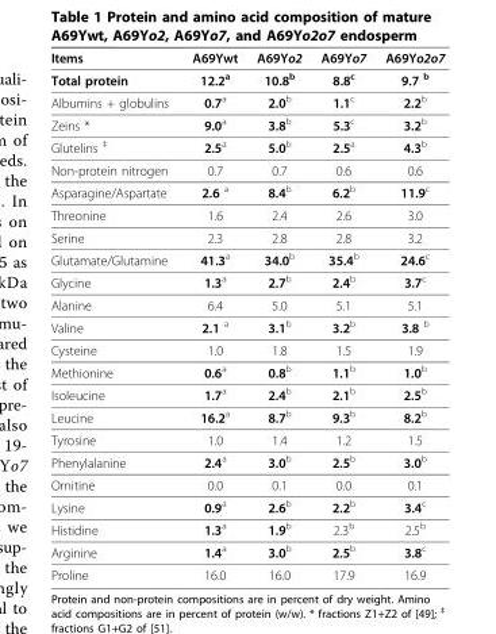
<table><thead><tr><td>Items</td><td>A69Ywt</td><td>A69Yo2</td><td>A69Yo7</td><td>A69Yo2o7</td></tr></thead><tbody><tr><td>Total protein</td><td>12.2<sup>a</sup></td><td>10.8<sup>b</sup></td><td>8.8<sup>c</sup></td><td>9.7 <sup>b</sup></td></tr><tr><td>Albumins + globulins</td><td>0.7<sup>a</sup></td><td>2.0<sup>b</sup></td><td>1.1<sup>c</sup></td><td>2.2<sup>b</sup></td></tr><tr><td>Zeins *</td><td>9.0<sup>a</sup></td><td>3.8<sup>b</sup></td><td>5.3<sup>c</sup></td><td>3.2<sup>b</sup></td></tr><tr><td>Glutelins <sup>‡</sup></td><td>2.5<sup>a</sup></td><td>5.0<sup>b</sup></td><td>2.5<sup>a</sup></td><td>4.3<sup>b</sup></td></tr><tr><td>Non-protein nitrogen</td><td>0.7</td><td>0.7</td><td>0.6</td><td>0.6</td></tr><tr><td>Asparagine/Aspartate</td><td>2.6 <sup>a</sup></td><td>8.4<sup>b</sup></td><td>6.2<sup>b</sup></td><td>11.9<sup>c</sup></td></tr><tr><td>Threonine</td><td>1.6</td><td>2.4</td><td>2.6</td><td>3.0</td></tr><tr><td>Serine</td><td>2.3</td><td>2.8</td><td>2.8</td><td>3.2</td></tr><tr><td>Glutamate/Glutamine</td><td>41.3<sup>a</sup></td><td>34.0<sup>b</sup></td><td>35.4<sup>b</sup></td><td>24.6<sup>c</sup></td></tr><tr><td>Glycine</td><td>1.3<sup>a</sup></td><td>2.7<sup>b</sup></td><td>2.4<sup>b</sup></td><td>3.7<sup>c</sup></td></tr><tr><td>Alanine</td><td>6.4</td><td>5.0</td><td>5.1</td><td>5.1</td></tr><tr><td>Valine</td><td>2.1 <sup>a</sup></td><td>3.1<sup>b</sup></td><td>3.2<sup>b</sup></td><td>3.8 <sup>b</sup></td></tr><tr><td>Cysteine</td><td>1.0</td><td>1.8</td><td>1.5</td><td>1.9</td></tr><tr><td>Methionine</td><td>0.6<sup>a</sup></td><td>0.8<sup>b</sup></td><td>1.1<sup>b</sup></td><td>1.0<sup>b</sup></td></tr><tr><td>Isoleucine</td><td>1.7<sup>a</sup></td><td>2.4<sup>b</sup></td><td>2.1<sup>b</sup></td><td>2.5<sup>b</sup></td></tr><tr><td>Leucine</td><td>16.2<sup>a</sup></td><td>8.7<sup>b</sup></td><td>9.3<sup>b</sup></td><td>8.2<sup>b</sup></td></tr><tr><td>Tyrosine</td><td>1.0</td><td>1.4</td><td>1.2</td><td>1.5</td></tr><tr><td>Phenylalanine</td><td>2.4<sup>a</sup></td><td>3.0<sup>b</sup></td><td>2.5<sup>b</sup></td><td>3.0<sup>b</sup></td></tr><tr><td>Ornitine</td><td>0.0</td><td>0.1</td><td>0.0</td><td>0.1</td></tr><tr><td>Lysine</td><td>0.9<sup>a</sup></td><td>2.6<sup>b</sup></td><td>2.2<sup>b</sup></td><td>3.4<sup>c</sup></td></tr><tr><td>Histidine</td><td>1.3<sup>a</sup></td><td>1.9<sup>b</sup></td><td>2.3<sup>b</sup></td><td>2.5<sup>b</sup></td></tr><tr><td>Arginine</td><td>1.4<sup>a</sup></td><td>3.0<sup>b</sup></td><td>2.5<sup>b</sup></td><td>3.8<sup>c</sup></td></tr><tr><td>Proline</td><td>16.0</td><td>16.0</td><td>17.9</td><td>16.9</td></tr></tbody></table>